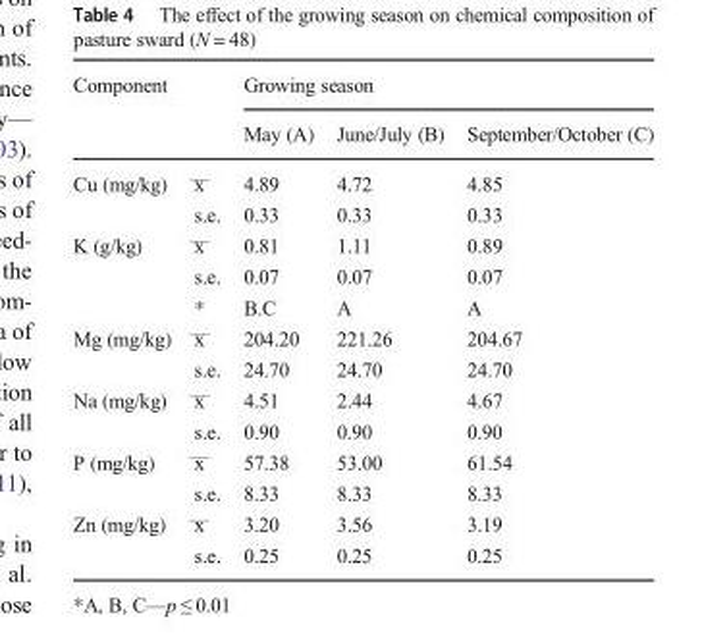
<table><thead><tr><td rowspan="2">Component</td><td rowspan="2"></td><td colspan="3">Growing season</td></tr><tr><td>May (A)</td><td>June/July (B)</td><td>September/October (C)</td></tr></thead><tbody><tr><td rowspan="2">Cu (mg/kg)</td><td>x̅</td><td>4.89</td><td>4.72</td><td>4.85</td></tr><tr><td>s.e.</td><td>0.33</td><td>0.33</td><td>0.33</td></tr><tr><td rowspan="3">K (g/kg)</td><td>x̅</td><td>0.81</td><td>1.11</td><td>0.89</td></tr><tr><td>s.e.</td><td>0.07</td><td>0.07</td><td>0.07</td></tr><tr><td>*</td><td>B.C</td><td>A</td><td>A</td></tr><tr><td rowspan="2">Mg (mg/kg)</td><td>x̅</td><td>204.20</td><td>221.26</td><td>204.67</td></tr><tr><td>s.e.</td><td>24.70</td><td>24.70</td><td>24.70</td></tr><tr><td rowspan="2">Na (mg/kg)</td><td>x̅</td><td>4.51</td><td>2.44</td><td>4.67</td></tr><tr><td>s.e.</td><td>0.90</td><td>0.90</td><td>0.90</td></tr><tr><td rowspan="2">P (mg/kg)</td><td>x̅</td><td>57.38</td><td>53.00</td><td>61.54</td></tr><tr><td>s.e.</td><td>8.33</td><td>8.33</td><td>8.33</td></tr><tr><td rowspan="2">Zn (mg/kg)</td><td>x̅</td><td>3.20</td><td>3.56</td><td>3.19</td></tr><tr><td>s.e.</td><td>0.25</td><td>0.25</td><td>0.25</td></tr></tbody></table>